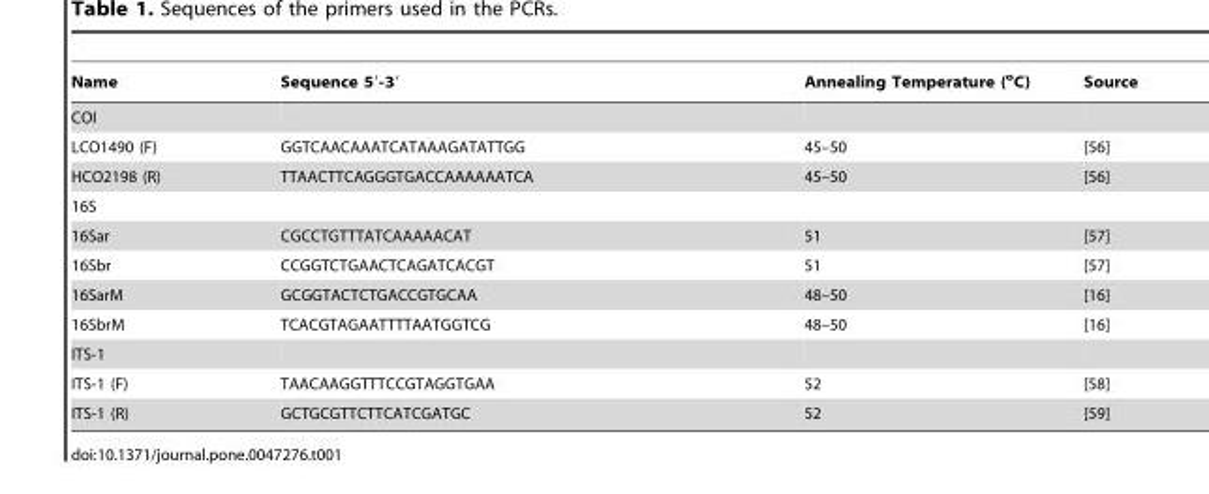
<table><thead><tr><td>Name</td><td>Sequence 5′-3′</td><td>Annealing Temperature (<sup>o</sup>C)</td><td>Source</td></tr></thead><tbody><tr><td colspan="4">COI</td></tr><tr><td>LCO1490 (F)</td><td>GGTCAACAAATCATAAAGATATTGG</td><td>45–50</td><td>[56]</td></tr><tr><td>HCO2198 (R)</td><td>TTAACTTCAGGGTGACCAAAAAATCA</td><td>45–50</td><td>[56]</td></tr><tr><td colspan="4">16S</td></tr><tr><td>16Sar</td><td>CGCCTGTTTATCAAAAACAT</td><td>51</td><td>[57]</td></tr><tr><td>16Sbr</td><td>CCGGTCTGAACTCAGATCACGT</td><td>51</td><td>[57]</td></tr><tr><td>16SarM</td><td>GCGGTACTCTGACCGTGCAA</td><td>48–50</td><td>[16]</td></tr><tr><td>16SbrM</td><td>TCACGTAGAATTTTAATGGTCG</td><td>48–50</td><td>[16]</td></tr><tr><td colspan="4">ITS-1</td></tr><tr><td>ITS-1 (F)</td><td>TAACAAGGTTTCCGTAGGTGAA</td><td>52</td><td>[58]</td></tr><tr><td>ITS-1 (R)</td><td>GCTGCGTTCTTCATCGATGC</td><td>52</td><td>[59]</td></tr></tbody></table>